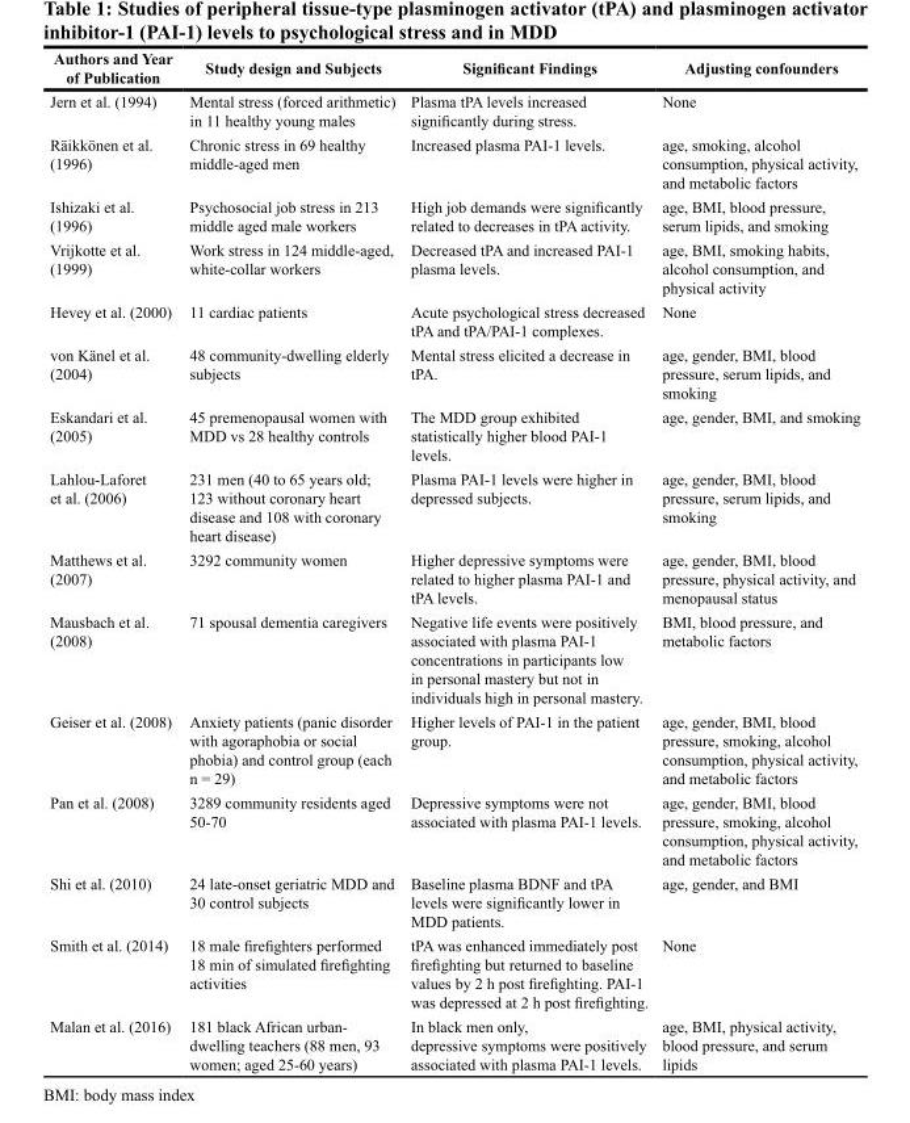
<table><thead><tr><td>Authors and Year of Publication</td><td>Study design and Subjects</td><td>Significant Findings</td><td>Adjusting confounders</td></tr></thead><tbody><tr><td>Jern et al. (1994)</td><td>Mental stress (forced arithmetic) in 11 healthy young males</td><td>Plasma tPA levels increased significantly during stress.</td><td>None</td></tr><tr><td>Räikkönen et al. (1996)</td><td>Chronic stress in 69 healthy middle-aged men</td><td>Increased plasma PAI-1 levels.</td><td>age, smoking, alcohol consumption, physical activity, and metabolic factors</td></tr><tr><td>Ishizaki et al. (1996)</td><td>Psychosocial job stress in 213 middle aged male workers</td><td>High job demands were significantly related to decreases in tPA activity.</td><td>age, BMI, blood pressure, serum lipids, and smoking</td></tr><tr><td>Vrijkotte et al. (1999)</td><td>Work stress in 124 middle-aged, white-collar workers</td><td>Decreased tPA and increased PAI-1 plasma levels.</td><td>age, BMI, smoking habits, alcohol consumption, and physical activity</td></tr><tr><td>Hevey et al. (2000)</td><td>11 cardiac patients</td><td>Acute psychological stress decreased tPA and tPA/PAI-1 complexes.</td><td>None</td></tr><tr><td>von Känel et al. (2004)</td><td>48 community-dwelling elderly subjects</td><td>Mental stress elicited a decrease in tPA.</td><td>age, gender, BMI, blood pressure, serum lipids, and smoking</td></tr><tr><td>Eskandari et al. (2005)</td><td>45 premenopausal women with MDD vs 28 healthy controls</td><td>The MDD group exhibited statistically higher blood PAI-1 levels.</td><td>age, gender, BMI, and smoking</td></tr><tr><td>Lahlou-Laforet et al. (2006)</td><td>231 men (40 to 65 years old; 123 without coronary heart disease and 108 with coronary heart disease)</td><td>Plasma PAI-1 levels were higher in depressed subjects.</td><td>age, gender, BMI, blood pressure, serum lipids, and smoking</td></tr><tr><td>Matthews et al. (2007)</td><td>3292 community women</td><td>Higher depressive symptoms were related to higher plasma PAI-1 and tPA levels.</td><td>age, gender, BMI, blood pressure, physical activity, and menopausal status</td></tr><tr><td>Mausbach et al. (2008)</td><td>71 spousal dementia caregivers</td><td>Negative life events were positively associated with plasma PAI-1 concentrations in participants low in personal mastery but not in individuals high in personal mastery.</td><td>BMI, blood pressure, and metabolic factors</td></tr><tr><td>Geiser et al. (2008)</td><td>Anxiety patients (panic disorder with agoraphobia or social phobia) and control group (each n = 29)</td><td>Higher levels of PAI-1 in the patient group.</td><td>age, gender, BMI, blood pressure, smoking, alcohol consumption, physical activity, and metabolic factors</td></tr><tr><td>Pan et al. (2008)</td><td>3289 community residents aged 50-70</td><td>Depressive symptoms were not associated with plasma PAI-1 levels.</td><td>age, gender, BMI, blood pressure, smoking, alcohol consumption, physical activity, and metabolic factors</td></tr><tr><td>Shi et al. (2010)</td><td>24 late-onset geriatric MDD and 30 control subjects</td><td>Baseline plasma BDNF and tPA levels were significantly lower in MDD patients.</td><td>age, gender, and BMI</td></tr><tr><td>Smith et al. (2014)</td><td>18 male firefighters performed 18 min of simulated firefighting activities</td><td>tPA was enhanced immediately post firefighting but returned to baseline values by 2 h post firefighting. PAI-1 was depressed at 2 h post firefighting.</td><td>None</td></tr><tr><td>Malan et al. (2016)</td><td>181 black African urban- dwelling teachers (88 men, 93 women; aged 25-60 years)</td><td>In black men only, depressive symptoms were positively associated with plasma PAI-1 levels.</td><td>age, BMI, physical activity, blood pressure, and serum lipids</td></tr></tbody></table>